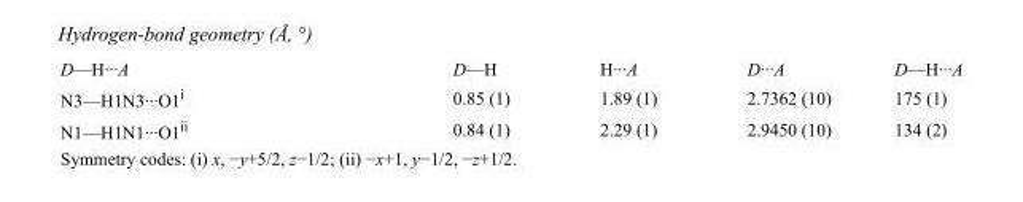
<table><tbody><tr><td>D—H···A</td><td>D—H</td><td>H···A</td><td>D···A</td><td>D—H···A</td></tr><tr><td>N3—H1N3···O1<sup>i</sup></td><td>0.85 (1)</td><td>1.89 (1)</td><td>2.7362 (10)</td><td>175 (1)</td></tr><tr><td>N1—H1N1···O1<sup>ii</sup></td><td>0.84 (1)</td><td>2.29 (1)</td><td>2.9450 (10)</td><td>134 (2)</td></tr></tbody></table>